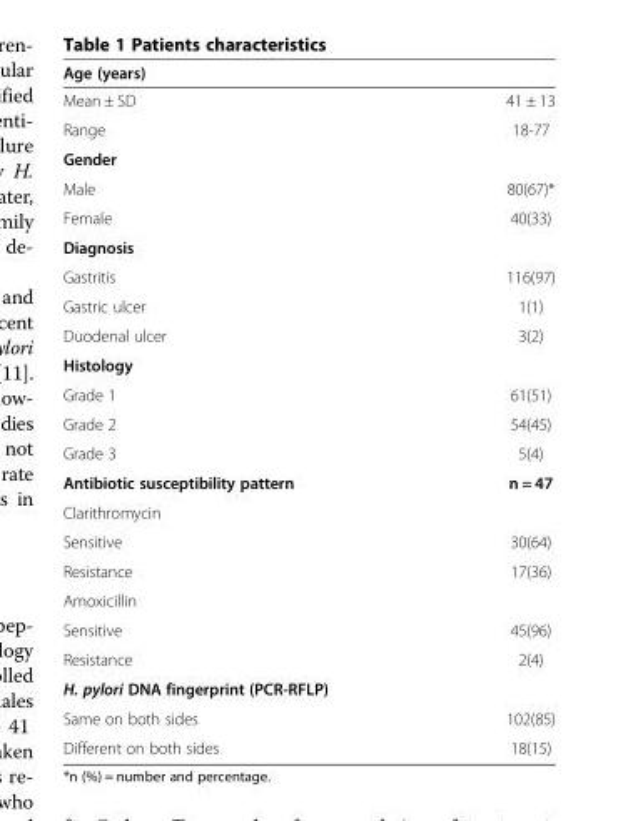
<table><thead><tr><td>Age (years)</td><td></td></tr></thead><tbody><tr><td>Mean ± SD</td><td>41 ± 13</td></tr><tr><td>Range</td><td>18-77</td></tr><tr><td colspan="2">Gender</td></tr><tr><td>Male</td><td>80(67)*</td></tr><tr><td>Female</td><td>40(33)</td></tr><tr><td colspan="2">Diagnosis</td></tr><tr><td>Gastritis</td><td>116(97)</td></tr><tr><td>Gastric ulcer</td><td>1(1)</td></tr><tr><td>Duodenal ulcer</td><td>3(2)</td></tr><tr><td colspan="2">Histology</td></tr><tr><td>Grade 1</td><td>61(51)</td></tr><tr><td>Grade 2</td><td>54(45)</td></tr><tr><td>Grade 3</td><td>5(4)</td></tr><tr><td>Antibiotic susceptibility pattern</td><td>n = 47</td></tr><tr><td colspan="2">Clarithromycin</td></tr><tr><td>Sensitive</td><td>30(64)</td></tr><tr><td>Resistance</td><td>17(36)</td></tr><tr><td colspan="2">Amoxicillin</td></tr><tr><td>Sensitive</td><td>45(96)</td></tr><tr><td>Resistance</td><td>2(4)</td></tr><tr><td colspan="2">H. pylori DNA fingerprint (PCR-RFLP)</td></tr><tr><td>Same on both sides</td><td>102(85)</td></tr><tr><td>Different on both sides</td><td>18(15)</td></tr></tbody></table>